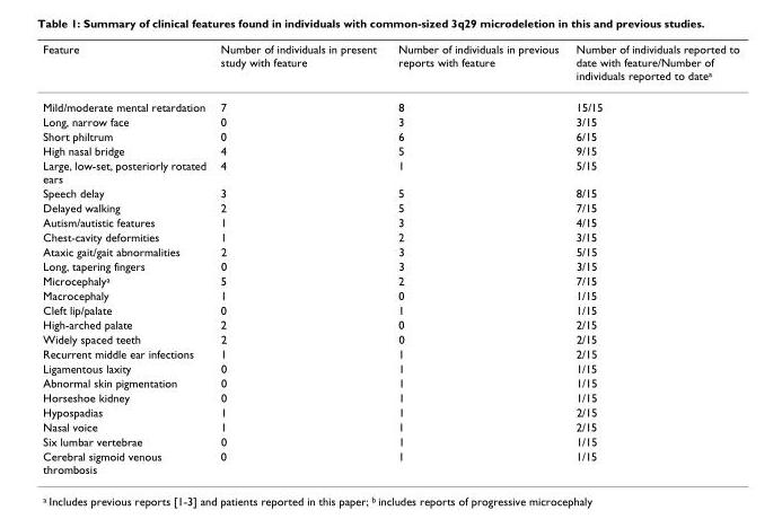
<table><thead><tr><td>Feature</td><td>Number of individuals in present study with feature</td><td>Number of individuals in previous reports with feature</td><td>Number of individuals reported to date with feature/Number of individuals reported to date<sup>a</sup></td></tr></thead><tbody><tr><td>Mild/moderate mental retardation</td><td>7</td><td>8</td><td>15/15</td></tr><tr><td>Long, narrow face</td><td>0</td><td>3</td><td>3/15</td></tr><tr><td>Short philtrum</td><td>0</td><td>6</td><td>6/15</td></tr><tr><td>High nasal bridge</td><td>4</td><td>5</td><td>9/15</td></tr><tr><td>Large, low-set, posteriorly rotated ears</td><td>4</td><td>1</td><td>5/15</td></tr><tr><td>Speech delay</td><td>3</td><td>5</td><td>8/15</td></tr><tr><td>Delayed walking</td><td>2</td><td>5</td><td>7/15</td></tr><tr><td>Autism/autistic features</td><td>1</td><td>3</td><td>4/15</td></tr><tr><td>Chest-cavity deformities</td><td>1</td><td>2</td><td>3/15</td></tr><tr><td>Ataxic gait/gait abnormalities</td><td>2</td><td>3</td><td>5/15</td></tr><tr><td>Long, tapering fingers</td><td>0</td><td>3</td><td>3/15</td></tr><tr><td>Microcephaly<sup>a</sup></td><td>5</td><td>2</td><td>7/15</td></tr><tr><td>Macrocephaly</td><td>1</td><td>0</td><td>1/15</td></tr><tr><td>Cleft lip/palate</td><td>0</td><td>1</td><td>1/15</td></tr><tr><td>High-arched palate</td><td>2</td><td>0</td><td>2/15</td></tr><tr><td>Widely spaced teeth</td><td>2</td><td>0</td><td>2/15</td></tr><tr><td>Recurrent middle ear infections</td><td>1</td><td>1</td><td>2/15</td></tr><tr><td>Ligamentous laxity</td><td>0</td><td>1</td><td>1/15</td></tr><tr><td>Abnormal skin pigmentation</td><td>0</td><td>1</td><td>1/15</td></tr><tr><td>Horseshoe kidney</td><td>0</td><td>1</td><td>1/15</td></tr><tr><td>Hypospadias</td><td>1</td><td>1</td><td>2/15</td></tr><tr><td>Nasal voice</td><td>1</td><td>1</td><td>2/15</td></tr><tr><td>Six lumbar vertebrae</td><td>0</td><td>1</td><td>1/15</td></tr><tr><td>Cerebral sigmoid venous thrombosis</td><td>0</td><td>1</td><td>1/15</td></tr></tbody></table>